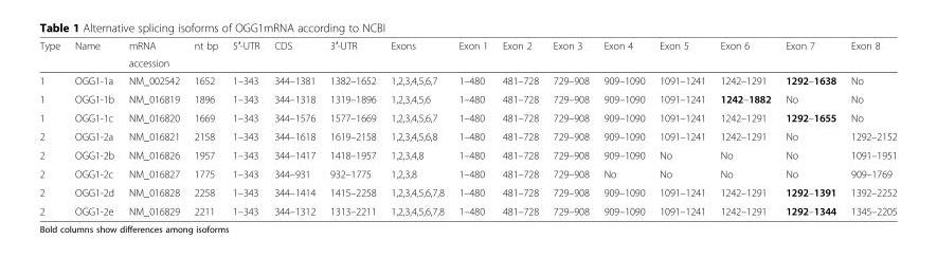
<table><thead><tr><td rowspan="2">Type</td><td rowspan="2">Name</td><td rowspan="2">mRNA accession</td><td rowspan="2">nt bp</td><td rowspan="2">5′-UTR</td><td rowspan="2">CDS</td><td rowspan="2">3′-UTR</td><td rowspan="2">Exons</td><td rowspan="2">Exon 1</td><td rowspan="2">Exon 2</td><td rowspan="2">Exon 3</td><td rowspan="2">Exon 4</td><td rowspan="2">Exon 5</td><td rowspan="2">Exon 6</td><td rowspan="2">Exon 7</td><td rowspan="2">Exon 8</td></tr><tr></tr></thead><tbody><tr><td>1</td><td>OGG1-1a</td><td>NM_002542</td><td>1652</td><td>1–343</td><td>344–1381</td><td>1382–1652</td><td>1,2,3,4,5,6,7</td><td>1–480</td><td>481–728</td><td>729–908</td><td>909–1090</td><td>1091–1241</td><td>1242–1291</td><td>1292–1638</td><td>No</td></tr><tr><td>1</td><td>OGG1-1b</td><td>NM_016819</td><td>1896</td><td>1–343</td><td>344–1318</td><td>1319–1896</td><td>1,2,3,4,5,6</td><td>1–480</td><td>481–728</td><td>729–908</td><td>909–1090</td><td>1091–1241</td><td>1242–1882</td><td>No</td><td>No</td></tr><tr><td>1</td><td>OGG1-1c</td><td>NM_016820</td><td>1669</td><td>1–343</td><td>344–1576</td><td>1577–1669</td><td>1,2,3,4,5,6,7</td><td>1–480</td><td>481–728</td><td>729–908</td><td>909–1090</td><td>1091–1241</td><td>1242–1291</td><td>1292–1655</td><td>No</td></tr><tr><td>2</td><td>OGG1-2a</td><td>NM_016821</td><td>2158</td><td>1–343</td><td>344–1618</td><td>1619–2158</td><td>1,2,3,4,5,6,8</td><td>1–480</td><td>481–728</td><td>729–908</td><td>909–1090</td><td>1091–1241</td><td>1242–1291</td><td>No</td><td>1292–2152</td></tr><tr><td>2</td><td>OGG1-2b</td><td>NM_016826</td><td>1957</td><td>1–343</td><td>344–1417</td><td>1418–1957</td><td>1,2,3,4,8</td><td>1–480</td><td>481–728</td><td>729–908</td><td>909–1090</td><td>No</td><td>No</td><td>No</td><td>1091–1951</td></tr><tr><td>2</td><td>OGG1-2c</td><td>NM_016827</td><td>1775</td><td>1–343</td><td>344–931</td><td>932–1775</td><td>1,2,3,8</td><td>1–480</td><td>481–728</td><td>729–908</td><td>No</td><td>No</td><td>No</td><td>No</td><td>909–1769</td></tr><tr><td>2</td><td>OGG1-2d</td><td>NM_016828</td><td>2258</td><td>1–343</td><td>344–1414</td><td>1415–2258</td><td>1,2,3,4,5,6,7,8</td><td>1–480</td><td>481–728</td><td>729–908</td><td>909–1090</td><td>1091–1241</td><td>1242–1291</td><td>1292–1391</td><td>1392–2252</td></tr><tr><td>2</td><td>OGG1-2e</td><td>NM_016829</td><td>2211</td><td>1–343</td><td>344–1312</td><td>1313–2211</td><td>1,2,3,4,5,6,7,8</td><td>1–480</td><td>481–728</td><td>729–908</td><td>909–1090</td><td>1091–1241</td><td>1242–1291</td><td>1292–1344</td><td>1345–2205</td></tr></tbody></table>